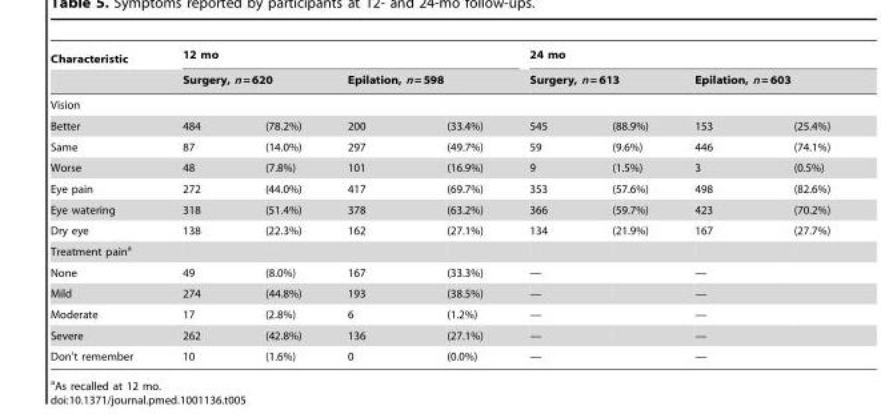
<table><thead><tr><td rowspan="3">Characteristic Vision</td><td colspan="4">12 mo</td><td colspan="4">24 mo</td></tr><tr><td colspan="2">Surgery, n = 620</td><td colspan="2">Epilation, n = 598</td><td colspan="2">Surgery, n = 613</td><td colspan="2">Epilation, n = 603</td></tr><tr><td></td><td></td><td></td><td></td><td></td><td></td><td></td><td></td></tr></thead><tbody><tr><td>Better</td><td>484</td><td>(78.2%)</td><td>200</td><td>(33.4%)</td><td>545</td><td>(88.9%)</td><td>153</td><td>(25.4%)</td></tr><tr><td>Same</td><td>87</td><td>(14.0%)</td><td>297</td><td>(49.7%)</td><td>59</td><td>(9.6%)</td><td>446</td><td>(74.1%)</td></tr><tr><td>Worse</td><td>48</td><td>(7.8%)</td><td>101</td><td>(16.9%)</td><td>9</td><td>(1.5%)</td><td>3</td><td>(0.5%)</td></tr><tr><td>Eye pain</td><td>272</td><td>(44.0%)</td><td>417</td><td>(69.7%)</td><td>353</td><td>(57.6%)</td><td>498</td><td>(82.6%)</td></tr><tr><td>Eye watering</td><td>318</td><td>(51.4%)</td><td>378</td><td>(63.2%)</td><td>366</td><td>(59.7%)</td><td>423</td><td>(70.2%)</td></tr><tr><td>Dry eye</td><td>138</td><td>(22.3%)</td><td>162</td><td>(27.1%)</td><td>134</td><td>(21.9%)</td><td>167</td><td>(27.7%)</td></tr><tr><td colspan="9">Treatment pain<sup>a</sup></td></tr><tr><td>None</td><td>49</td><td>(8.0%)</td><td>167</td><td>(33.3%)</td><td>—</td><td></td><td>—</td><td></td></tr><tr><td>Mild</td><td>274</td><td>(44.8%)</td><td>193</td><td>(38.5%)</td><td>—</td><td></td><td>—</td><td></td></tr><tr><td>Moderate</td><td>17</td><td>(2.8%)</td><td>6</td><td>(1.2%)</td><td>—</td><td></td><td>—</td><td></td></tr><tr><td>Severe</td><td>262</td><td>(42.8%)</td><td>136</td><td>(27.1%)</td><td>—</td><td></td><td>—</td><td></td></tr><tr><td>Don’t remember</td><td>10</td><td>(1.6%)</td><td>0</td><td>(0.0%)</td><td>—</td><td></td><td>—</td><td></td></tr></tbody></table>